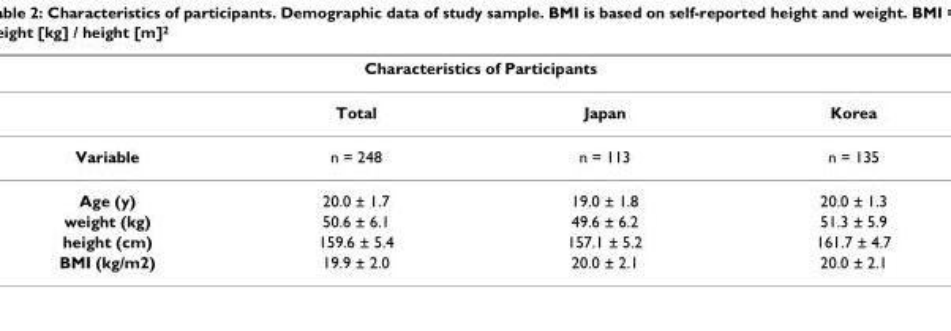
<table><thead><tr><td colspan="4">Characteristics of Participants</td></tr><tr><td></td><td>Total</td><td>Japan</td><td>Korea</td></tr></thead><tbody><tr><td>Variable</td><td>n = 248</td><td>n = 113</td><td>n = 135</td></tr><tr><td>Age (y)</td><td>20.0 ± 1.7</td><td>19.0 ± 1.8</td><td>20.0 ± 1.3</td></tr><tr><td>weight (kg)</td><td>50.6 ± 6.1</td><td>49.6 ± 6.2</td><td>51.3 ± 5.9</td></tr><tr><td>height (cm)</td><td>159.6 ± 5.4</td><td>157.1 ± 5.2</td><td>161.7 ± 4.7</td></tr><tr><td>BMI (kg/m2)</td><td>19.9 ± 2.0</td><td>20.0 ± 2.1</td><td>20.0 ± 2.1</td></tr></tbody></table>